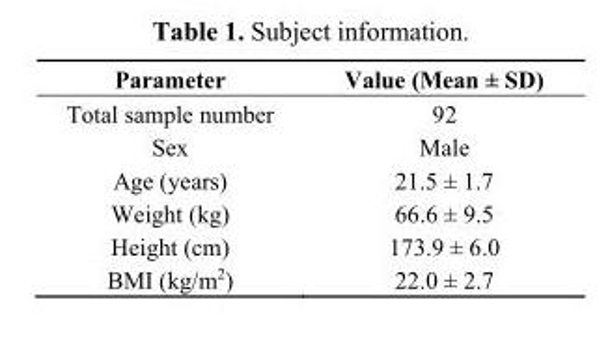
<table><thead><tr><td>Parameter</td><td>Value (Mean ± SD)</td></tr></thead><tbody><tr><td>Total sample number</td><td>92</td></tr><tr><td>Sex</td><td>Male</td></tr><tr><td>Age (years)</td><td>21.5 ± 1.7</td></tr><tr><td>Weight (kg)</td><td>66.6 ± 9.5</td></tr><tr><td>Height (cm)</td><td>173.9 ± 6.0</td></tr><tr><td>BMI (kg/m<sup>2</sup>)</td><td>22.0 ± 2.7</td></tr></tbody></table>